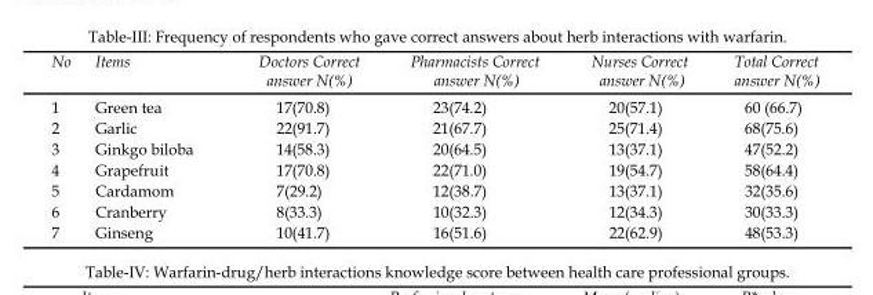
<table><thead><tr><td>No</td><td>Items</td><td>Doctors Correct answer N(%)</td><td>Pharmacists Correct answer N(%)</td><td>Nurses Correct answer N(%)</td><td>Total Correct answer N(%)</td></tr></thead><tbody><tr><td>1</td><td>Green tea</td><td>17(70.8)</td><td>23(74.2)</td><td>20(57.1)</td><td>60 (66.7)</td></tr><tr><td>2</td><td>Garlic</td><td>22(91.7)</td><td>21(67.7)</td><td>25(71.4)</td><td>68(75.6)</td></tr><tr><td>3</td><td>Ginkgo biloba</td><td>14(58.3)</td><td>20(64.5)</td><td>13(37.1)</td><td>47(52.2)</td></tr><tr><td>4</td><td>Grapefruit</td><td>17(70.8)</td><td>22(71.0)</td><td>19(54.7)</td><td>58(64.4)</td></tr><tr><td>5</td><td>Cardamom</td><td>7(29.2)</td><td>12(38.7)</td><td>13(37.1)</td><td>32(35.6)</td></tr><tr><td>6</td><td>Cranberry</td><td>8(33.3)</td><td>10(32.3)</td><td>12(34.3)</td><td>30(33.3)</td></tr><tr><td>7</td><td>Ginseng</td><td>10(41.7)</td><td>16(51.6)</td><td>22(62.9)</td><td>48(53.3)</td></tr></tbody></table>